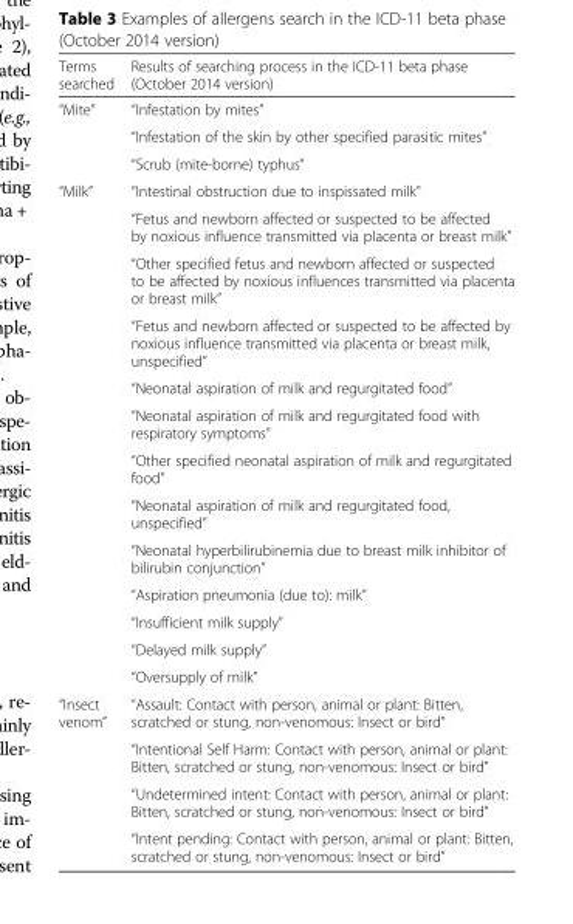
<table><thead><tr><td>Terms searched</td><td>Results of searching process in the ICD-11 beta phase (October 2014 version)</td></tr></thead><tbody><tr><td rowspan="3">“Mite”</td><td>“Infestation by mites”</td></tr><tr><td>“Infestation of the skin by other specified parasitic mites”</td></tr><tr><td>“Scrub (mite-borne) typhus”</td></tr><tr><td rowspan="13">“Milk”</td><td>“Intestinal obstruction due to inspissated milk”</td></tr><tr><td>“Fetus and newborn affected or suspected to be affected by noxious influence transmitted via placenta or breast milk”</td></tr><tr><td>“Other specified fetus and newborn affected or suspected to be affected by noxious influences transmitted via placenta or breast milk”</td></tr><tr><td>“Fetus and newborn affected or suspected to be affected by noxious influence transmitted via placenta or breast milk, unspecified”</td></tr><tr><td>“Neonatal aspiration of milk and regurgitated food”</td></tr><tr><td>“Neonatal aspiration of milk and regurgitated food with respiratory symptoms”</td></tr><tr><td>“Other specified neonatal aspiration of milk and regurgitated food”</td></tr><tr><td>“Neonatal aspiration of milk and regurgitated food, unspecified”</td></tr><tr><td>“Neonatal hyperbilirubinemia due to breast milk inhibitor of bilirubin conjunction”</td></tr><tr><td>“Aspiration pneumonia (due to): milk”</td></tr><tr><td>“Insufficient milk supply”</td></tr><tr><td>“Delayed milk supply”</td></tr><tr><td>“Oversupply of milk”</td></tr><tr><td rowspan="4">“Insect venom”</td><td>“Assault: Contact with person, animal or plant: Bitten, scratched or stung, non-venomous: Insect or bird”</td></tr><tr><td>“Intentional Self Harm: Contact with person, animal or plant: Bitten, scratched or stung, non-venomous: Insect or bird”</td></tr><tr><td>“Undetermined intent: Contact with person, animal or plant: Bitten, scratched or stung, non-venomous: Insect or bird”</td></tr><tr><td>“Intent pending: Contact with person, animal or plant: Bitten, scratched or stung, non-venomous: Insect or bird”</td></tr></tbody></table>